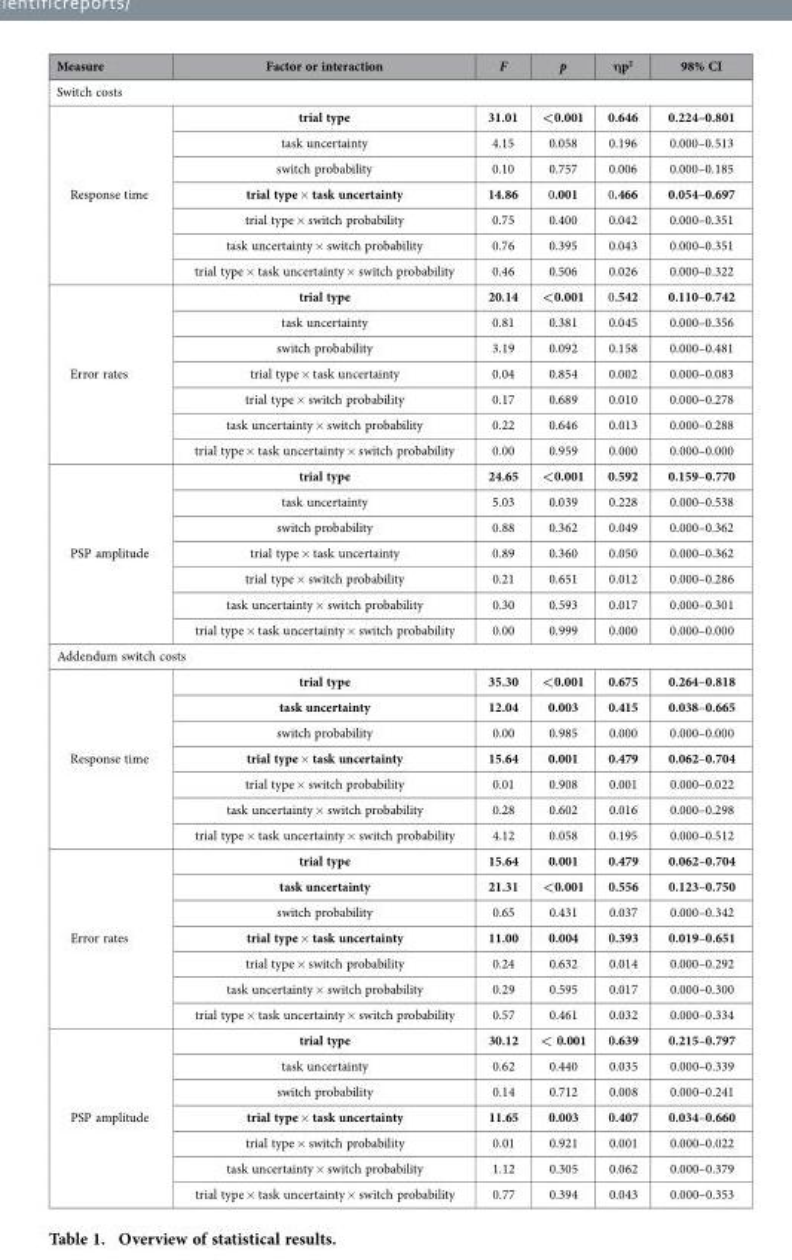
<table><thead><tr><td>Measure</td><td>Factor or interaction</td><td>F</td><td>p</td><td>ηp<sup>2</sup></td><td>98% CI</td></tr></thead><tbody><tr><td colspan="6">Switch costs</td></tr><tr><td rowspan="7">Response time</td><td>trial type</td><td>31.01</td><td>&lt;0.001</td><td>0.646</td><td>0.224–0.801</td></tr><tr><td>task uncertainty</td><td>4.15</td><td>0.058</td><td>0.196</td><td>0.000–0.513</td></tr><tr><td>switch probability</td><td>0.10</td><td>0.757</td><td>0.006</td><td>0.000–0.185</td></tr><tr><td>trial type × task uncertainty</td><td>14.86</td><td>0.001</td><td>0.466</td><td>0.054–0.697</td></tr><tr><td>trial type × switch probability</td><td>0.75</td><td>0.400</td><td>0.042</td><td>0.000–0.351</td></tr><tr><td>task uncertainty × switch probability</td><td>0.76</td><td>0.395</td><td>0.043</td><td>0.000–0.351</td></tr><tr><td>trial type × task uncertainty × switch probability</td><td>0.46</td><td>0.506</td><td>0.026</td><td>0.000–0.322</td></tr><tr><td rowspan="7">Error rates</td><td>trial type</td><td>20.14</td><td>&lt;0.001</td><td>0.542</td><td>0.110–0.742</td></tr><tr><td>task uncertainty</td><td>0.81</td><td>0.381</td><td>0.045</td><td>0.000–0.356</td></tr><tr><td>switch probability</td><td>3.19</td><td>0.092</td><td>0.158</td><td>0.000–0.481</td></tr><tr><td>trial type × task uncertainty</td><td>0.04</td><td>0.854</td><td>0.002</td><td>0.000–0.083</td></tr><tr><td>trial type × switch probability</td><td>0.17</td><td>0.689</td><td>0.010</td><td>0.000–0.278</td></tr><tr><td>task uncertainty × switch probability</td><td>0.22</td><td>0.646</td><td>0.013</td><td>0.000–0.288</td></tr><tr><td>trial type × task uncertainty × switch probability</td><td>0.00</td><td>0.959</td><td>0.000</td><td>0.000–0.000</td></tr><tr><td rowspan="7">PSP amplitude</td><td>trial type</td><td>24.65</td><td>&lt;0.001</td><td>0.592</td><td>0.159–0.770</td></tr><tr><td>task uncertainty</td><td>5.03</td><td>0.039</td><td>0.228</td><td>0.000–0.538</td></tr><tr><td>switch probability</td><td>0.88</td><td>0.362</td><td>0.049</td><td>0.000–0.362</td></tr><tr><td>trial type × task uncertainty</td><td>0.89</td><td>0.360</td><td>0.050</td><td>0.000–0.362</td></tr><tr><td>trial type × switch probability</td><td>0.21</td><td>0.651</td><td>0.012</td><td>0.000–0.286</td></tr><tr><td>task uncertainty × switch probability</td><td>0.30</td><td>0.593</td><td>0.017</td><td>0.000–0.301</td></tr><tr><td>trial type × task uncertainty × switch probability</td><td>0.00</td><td>0.999</td><td>0.000</td><td>0.000–0.000</td></tr><tr><td colspan="6">Addendum switch costs</td></tr><tr><td rowspan="7">Response time</td><td>trial type</td><td>35.30</td><td>&lt;0.001</td><td>0.675</td><td>0.264–0.818</td></tr><tr><td>task uncertainty</td><td>12.04</td><td>0.003</td><td>0.415</td><td>0.038–0.665</td></tr><tr><td>switch probability</td><td>0.00</td><td>0.985</td><td>0.000</td><td>0.000–0.000</td></tr><tr><td>trial type × task uncertainty</td><td>15.64</td><td>0.001</td><td>0.479</td><td>0.062–0.704</td></tr><tr><td>trial type × switch probability</td><td>0.01</td><td>0.908</td><td>0.001</td><td>0.000–0.022</td></tr><tr><td>task uncertainty × switch probability</td><td>0.28</td><td>0.602</td><td>0.016</td><td>0.000–0.298</td></tr><tr><td>trial type × task uncertainty × switch probability</td><td>4.12</td><td>0.058</td><td>0.195</td><td>0.000–0.512</td></tr><tr><td rowspan="7">Error rates</td><td>trial type</td><td>15.64</td><td>0.001</td><td>0.479</td><td>0.062–0.704</td></tr><tr><td>task uncertainty</td><td>21.31</td><td>&lt;0.001</td><td>0.556</td><td>0.123–0.750</td></tr><tr><td>switch probability</td><td>0.65</td><td>0.431</td><td>0.037</td><td>0.000–0.342</td></tr><tr><td>trial type × task uncertainty</td><td>11.00</td><td>0.004</td><td>0.393</td><td>0.019–0.651</td></tr><tr><td>trial type × switch probability</td><td>0.24</td><td>0.632</td><td>0.014</td><td>0.000–0.292</td></tr><tr><td>task uncertainty × switch probability</td><td>0.29</td><td>0.595</td><td>0.017</td><td>0.000–0.300</td></tr><tr><td>trial type × task uncertainty × switch probability</td><td>0.57</td><td>0.461</td><td>0.032</td><td>0.000–0.334</td></tr><tr><td rowspan="7">PSP amplitude</td><td>trial type</td><td>30.12</td><td>&lt; 0.001</td><td>0.639</td><td>0.215–0.797</td></tr><tr><td>task uncertainty</td><td>0.62</td><td>0.440</td><td>0.035</td><td>0.000–0.339</td></tr><tr><td>switch probability</td><td>0.14</td><td>0.712</td><td>0.008</td><td>0.000–0.241</td></tr><tr><td>trial type × task uncertainty</td><td>11.65</td><td>0.003</td><td>0.407</td><td>0.034–0.660</td></tr><tr><td>trial type × switch probability</td><td>0.01</td><td>0.921</td><td>0.001</td><td>0.000–0.022</td></tr><tr><td>task uncertainty × switch probability</td><td>1.12</td><td>0.305</td><td>0.062</td><td>0.000–0.379</td></tr><tr><td>trial type × task uncertainty × switch probability</td><td>0.77</td><td>0.394</td><td>0.043</td><td>0.000–0.353</td></tr></tbody></table>